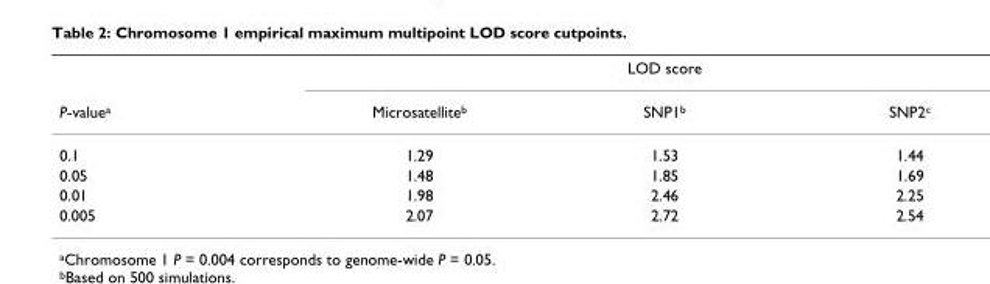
<table><thead><tr><td rowspan="2">P-valuea</td><td colspan="3">LOD score</td></tr><tr><td>Microsatelliteb</td><td>SNP1b</td><td>SNP2c</td></tr></thead><tbody><tr><td>0.1</td><td>1.29</td><td>1.53</td><td>1.44</td></tr><tr><td>0.05</td><td>1.48</td><td>1.85</td><td>1.69</td></tr><tr><td>0.01</td><td>1.98</td><td>2.46</td><td>2.25</td></tr><tr><td>0.005</td><td>2.07</td><td>2.72</td><td>2.54</td></tr></tbody></table>